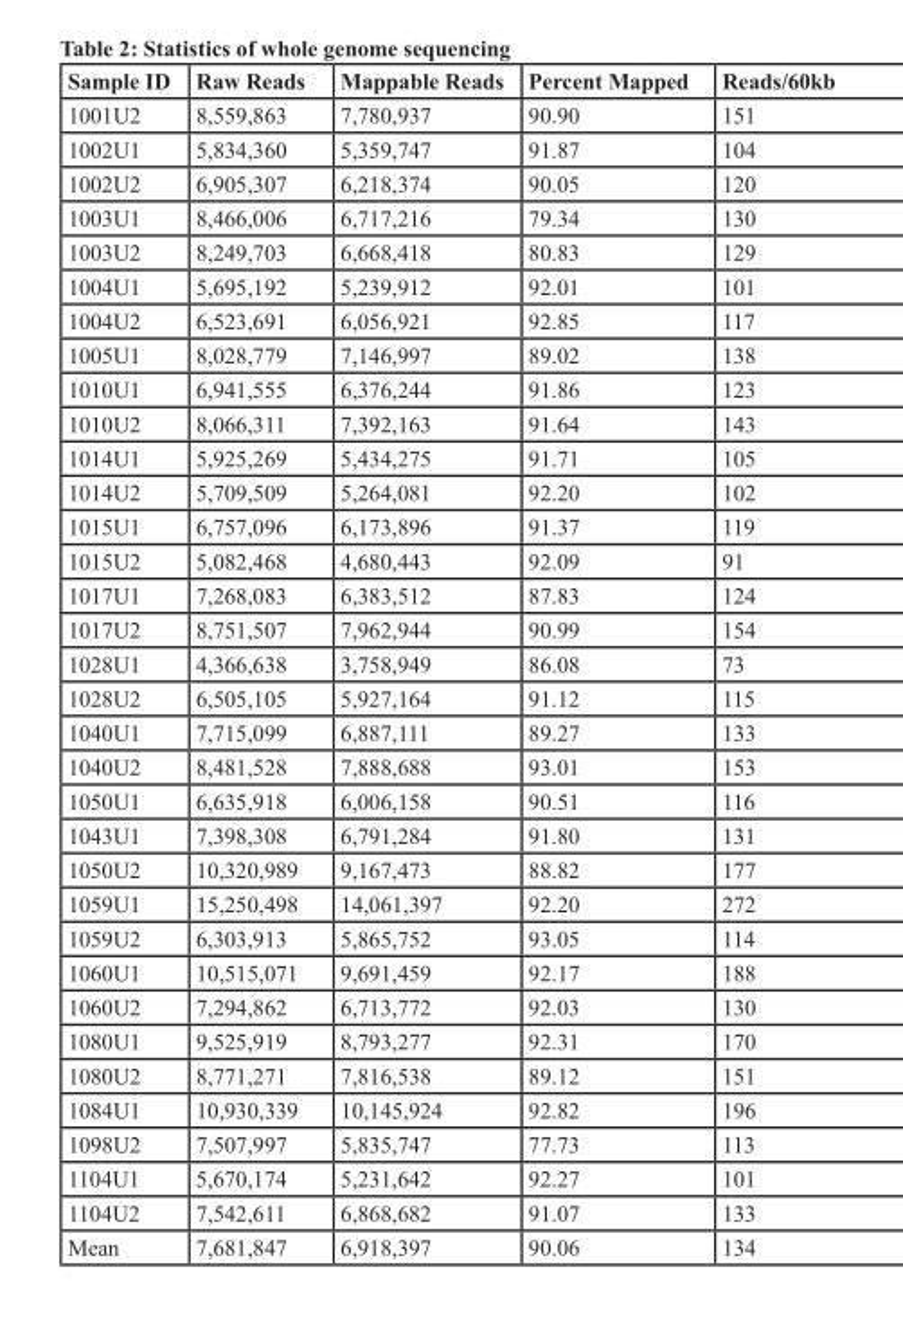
<table><thead><tr><td>sample ID</td><td>raw reads</td><td>Mappable reads</td><td>Percent Mapped</td><td>reads/60kb</td></tr></thead><tbody><tr><td>1001U2</td><td>8,559,863</td><td>7,780,937</td><td>90.90</td><td>151</td></tr><tr><td>1002U1</td><td>5,834,360</td><td>5,359,747</td><td>91.87</td><td>104</td></tr><tr><td>1002U2</td><td>6,905,307</td><td>6,218,374</td><td>90.05</td><td>120</td></tr><tr><td>1003U1</td><td>8,466,006</td><td>6,717,216</td><td>79.34</td><td>130</td></tr><tr><td>1003U2</td><td>8,249,703</td><td>6,668,418</td><td>80.83</td><td>129</td></tr><tr><td>1004U1</td><td>5,695,192</td><td>5,239,912</td><td>92.01</td><td>101</td></tr><tr><td>1004U2</td><td>6,523,691</td><td>6,056,921</td><td>92.85</td><td>117</td></tr><tr><td>1005U1</td><td>8,028,779</td><td>7,146,997</td><td>89.02</td><td>138</td></tr><tr><td>1010U1</td><td>6,941,555</td><td>6,376,244</td><td>91.86</td><td>123</td></tr><tr><td>1010U2</td><td>8,066,311</td><td>7,392,163</td><td>91.64</td><td>143</td></tr><tr><td>1014U1</td><td>5,925,269</td><td>5,434,275</td><td>91.71</td><td>105</td></tr><tr><td>1014U2</td><td>5,709,509</td><td>5,264,081</td><td>92.20</td><td>102</td></tr><tr><td>1015U1</td><td>6,757,096</td><td>6,173,896</td><td>91.37</td><td>119</td></tr><tr><td>1015U2</td><td>5,082,468</td><td>4,680,443</td><td>92.09</td><td>91</td></tr><tr><td>1017U1</td><td>7,268,083</td><td>6,383,512</td><td>87.83</td><td>124</td></tr><tr><td>1017U2</td><td>8,751,507</td><td>7,962,944</td><td>90.99</td><td>154</td></tr><tr><td>1028U1</td><td>4,366,638</td><td>3,758,949</td><td>86.08</td><td>73</td></tr><tr><td>1028U2</td><td>6,505,105</td><td>5,927,164</td><td>91.12</td><td>115</td></tr><tr><td>1040U1</td><td>7,715,099</td><td>6,887,111</td><td>89.27</td><td>133</td></tr><tr><td>1040U2</td><td>8,481,528</td><td>7,888,688</td><td>93.01</td><td>153</td></tr><tr><td>1050U1</td><td>6,635,918</td><td>6,006,158</td><td>90.51</td><td>116</td></tr><tr><td>1043U1</td><td>7,398,308</td><td>6,791,284</td><td>91.80</td><td>131</td></tr><tr><td>1050U2</td><td>10,320,989</td><td>9,167,473</td><td>88.82</td><td>177</td></tr><tr><td>1059U1</td><td>15,250,498</td><td>14,061,397</td><td>92.20</td><td>272</td></tr><tr><td>1059U2</td><td>6,303,913</td><td>5,865,752</td><td>93.05</td><td>114</td></tr><tr><td>1060U1</td><td>10,515,071</td><td>9,691,459</td><td>92.17</td><td>188</td></tr><tr><td>1060U2</td><td>7,294,862</td><td>6,713,772</td><td>92.03</td><td>130</td></tr><tr><td>1080U1</td><td>9,525,919</td><td>8,793,277</td><td>92.31</td><td>170</td></tr><tr><td>1080U2</td><td>8,771,271</td><td>7,816,538</td><td>89.12</td><td>151</td></tr><tr><td>1084U1</td><td>10,930,339</td><td>10,145,924</td><td>92.82</td><td>196</td></tr><tr><td>1098U2</td><td>7,507,997</td><td>5,835,747</td><td>77.73</td><td>113</td></tr><tr><td>1104U1</td><td>5,670,174</td><td>5,231,642</td><td>92.27</td><td>101</td></tr><tr><td>1104U2</td><td>7,542,611</td><td>6,868,682</td><td>91.07</td><td>133</td></tr><tr><td>Mean</td><td>7,681,847</td><td>6,918,397</td><td>90.06</td><td>134</td></tr></tbody></table>